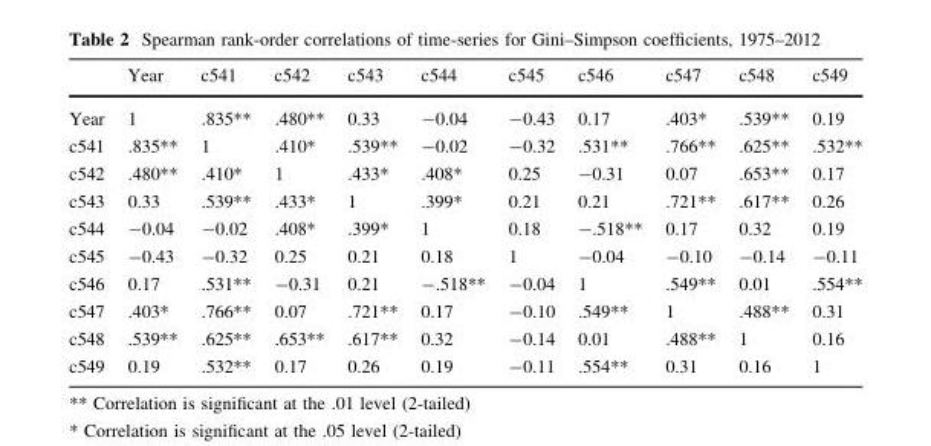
<table><thead><tr><td></td><td>Year</td><td>c541</td><td>c542</td><td>c543</td><td>c544</td><td>c545</td><td>c546</td><td>c547</td><td>c548</td><td>c549</td></tr></thead><tbody><tr><td>Year</td><td>1</td><td>.835**</td><td>.480**</td><td>0.33</td><td>-0.04</td><td>-0.43</td><td>0.17</td><td>.403*</td><td>.539**</td><td>0.19</td></tr><tr><td>c541</td><td>.835**</td><td>1</td><td>.410*</td><td>.539**</td><td>-0.02</td><td>-0.32</td><td>.531**</td><td>.766**</td><td>.625**</td><td>.532**</td></tr><tr><td>c542</td><td>.480**</td><td>.410*</td><td>1</td><td>.433*</td><td>.408*</td><td>0.25</td><td>-0.31</td><td>0.07</td><td>.653**</td><td>0.17</td></tr><tr><td>c543</td><td>0.33</td><td>.539**</td><td>.433*</td><td>1</td><td>.399*</td><td>0.21</td><td>0.21</td><td>.721**</td><td>.617**</td><td>0.26</td></tr><tr><td>c544</td><td>-0.04</td><td>-0.02</td><td>.408*</td><td>.399*</td><td>1</td><td>0.18</td><td>-.518**</td><td>0.17</td><td>0.32</td><td>0.19</td></tr><tr><td>c545</td><td>-0.43</td><td>-0.32</td><td>0.25</td><td>0.21</td><td>0.18</td><td>1</td><td>-0.04</td><td>-0.10</td><td>-0.14</td><td>-0.11</td></tr><tr><td>c546</td><td>0.17</td><td>.531**</td><td>-0.31</td><td>0.21</td><td>-.518**</td><td>-0.04</td><td>1</td><td>.549**</td><td>0.01</td><td>.554**</td></tr><tr><td>c547</td><td>.403*</td><td>.766**</td><td>0.07</td><td>.721**</td><td>0.17</td><td>-0.10</td><td>.549**</td><td>1</td><td>.488**</td><td>0.31</td></tr><tr><td>c548</td><td>.539**</td><td>.625**</td><td>.653**</td><td>.617**</td><td>0.32</td><td>-0.14</td><td>0.01</td><td>.488**</td><td>1</td><td>0.16</td></tr><tr><td>c549</td><td>0.19</td><td>.532**</td><td>0.17</td><td>0.26</td><td>0.19</td><td>-0.11</td><td>.554**</td><td>0.31</td><td>0.16</td><td>1</td></tr></tbody></table>